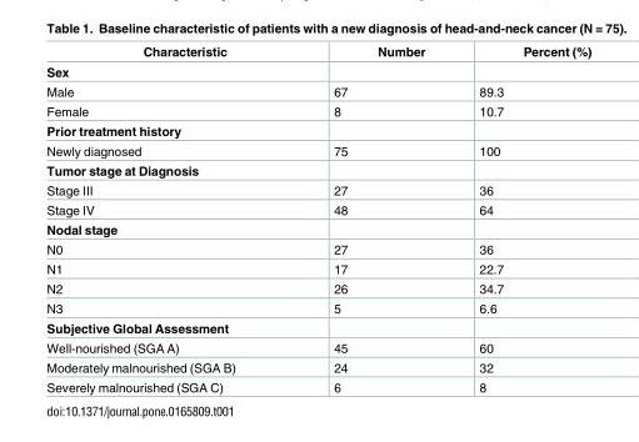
<table><thead><tr><td>Characteristic</td><td>Number</td><td>Percent (%)</td></tr></thead><tbody><tr><td colspan="3">Sex</td></tr><tr><td>Male</td><td>67</td><td>89.3</td></tr><tr><td>Female</td><td>8</td><td>10.7</td></tr><tr><td colspan="3">Prior treatment history</td></tr><tr><td>Newly diagnosed</td><td>75</td><td>100</td></tr><tr><td colspan="3">Tumor stage at Diagnosis</td></tr><tr><td>Stage III</td><td>27</td><td>36</td></tr><tr><td>Stage IV</td><td>48</td><td>64</td></tr><tr><td colspan="3">Nodal stage</td></tr><tr><td>N0</td><td>27</td><td>36</td></tr><tr><td>N1</td><td>17</td><td>22.7</td></tr><tr><td>N2</td><td>26</td><td>34.7</td></tr><tr><td>N3</td><td>5</td><td>6.6</td></tr><tr><td colspan="3">Subjective Global Assessment</td></tr><tr><td>Well-nourished (SGA A)</td><td>45</td><td>60</td></tr><tr><td>Moderately malnourished (SGA B)</td><td>24</td><td>32</td></tr><tr><td>Severely malnourished (SGA C)</td><td>6</td><td>8</td></tr></tbody></table>